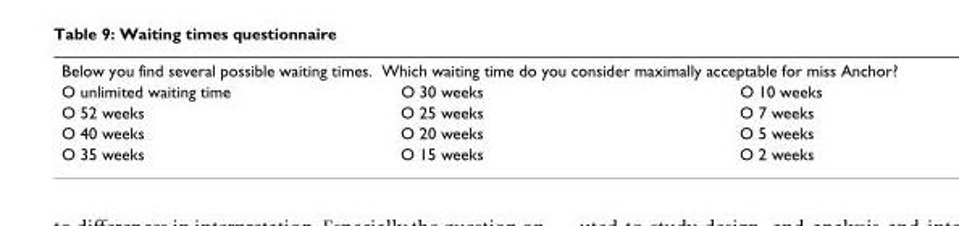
<table><tbody><tr><td colspan="3">Below you find several possible waiting times. Which waiting time do you consider maximally acceptable for miss Anchor?</td></tr><tr><td>O unlimited waiting time</td><td>O 30 weeks</td><td>O 10 weeks</td></tr><tr><td>O 52 weeks</td><td>O 25 weeks</td><td>O 7 weeks</td></tr><tr><td>O 40 weeks</td><td>O 20 weeks</td><td>O 5 weeks</td></tr><tr><td>O 35 weeks</td><td>O 15 weeks</td><td>O 2 weeks</td></tr></tbody></table>